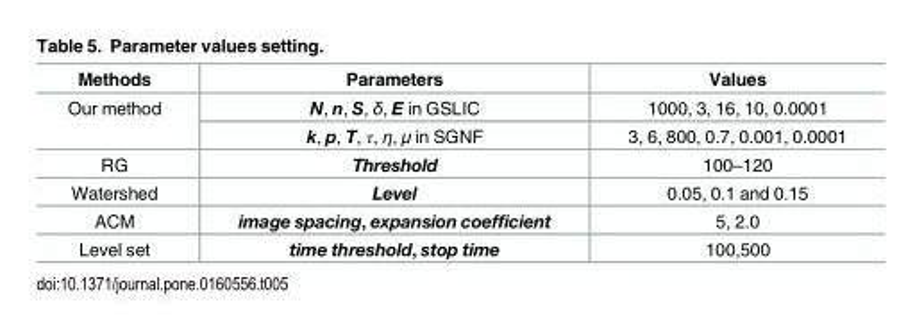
<table><thead><tr><td>Methods</td><td>Parameters</td><td>Values</td></tr></thead><tbody><tr><td rowspan="2">Our method</td><td>N, n, S, δ, E in GSLIC</td><td>1000, 3, 16, 10, 0.0001</td></tr><tr><td>k, p, T, τ, η, μ in SGNF</td><td>3, 6, 800, 0.7, 0.001, 0.0001</td></tr><tr><td>RG</td><td>Threshold</td><td>100–120</td></tr><tr><td>Watershed</td><td>Level</td><td>0.05, 0.1 and 0.15</td></tr><tr><td>ACM</td><td>image spacing, expansion coefficient</td><td>5, 2.0</td></tr><tr><td>Level set</td><td>time threshold, stop time</td><td>100,500</td></tr></tbody></table>